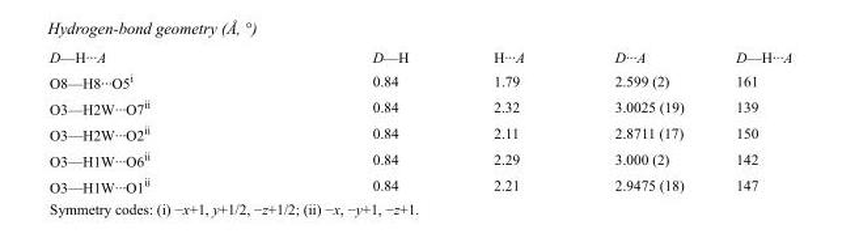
<table><tbody><tr><td>D—H···A</td><td>D—H</td><td>H···A</td><td>D···A</td><td>D—H···A</td></tr><tr><td>O8—H8···O5<sup>i</sup></td><td>0.84</td><td>1.79</td><td>2.599 (2)</td><td>161</td></tr><tr><td>O3—H2W···O7<sup>ii</sup></td><td>0.84</td><td>2.32</td><td>3.0025 (19)</td><td>139</td></tr><tr><td>O3—H2W···O2<sup>ii</sup></td><td>0.84</td><td>2.11</td><td>2.8711 (17)</td><td>150</td></tr><tr><td>O3—H1W···O6<sup>ii</sup></td><td>0.84</td><td>2.29</td><td>3.000 (2)</td><td>142</td></tr><tr><td>O3—H1W···O1<sup>ii</sup></td><td>0.84</td><td>2.21</td><td>2.9475 (18)</td><td>147</td></tr></tbody></table>